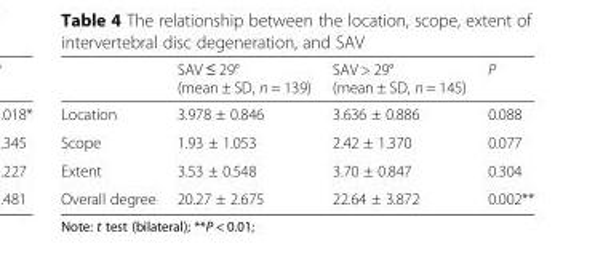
<table><thead><tr><td></td><td>SAV ≤ 29° (mean ± SD, n = 139)</td><td>SAV &gt; 29° (mean ± SD, n = 145)</td><td>P</td></tr></thead><tbody><tr><td>Location</td><td>3.978 ± 0.846</td><td>3.636 ± 0.886</td><td>0.088</td></tr><tr><td>Scope</td><td>1.93 ± 1.053</td><td>2.42 ± 1.370</td><td>0.077</td></tr><tr><td>Extent</td><td>3.53 ± 0.548</td><td>3.70 ± 0.847</td><td>0.304</td></tr><tr><td>Overall degree</td><td>20.27 ± 2.675</td><td>22.64 ± 3.872</td><td>0.002**</td></tr></tbody></table>